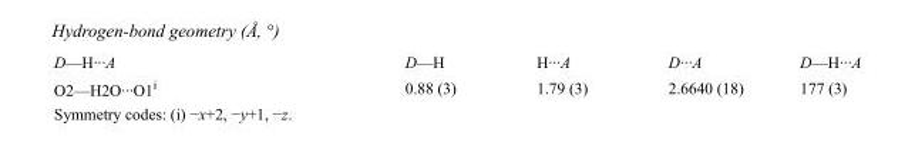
<table><tbody><tr><td>D—H···A</td><td>D—H</td><td>H···A</td><td>D···A</td><td>D—H···A</td></tr><tr><td>O2—H2O···O1<sup>i</sup></td><td>0.88 (3)</td><td>1.79 (3)</td><td>2.6640 (18)</td><td>177 (3)</td></tr></tbody></table>